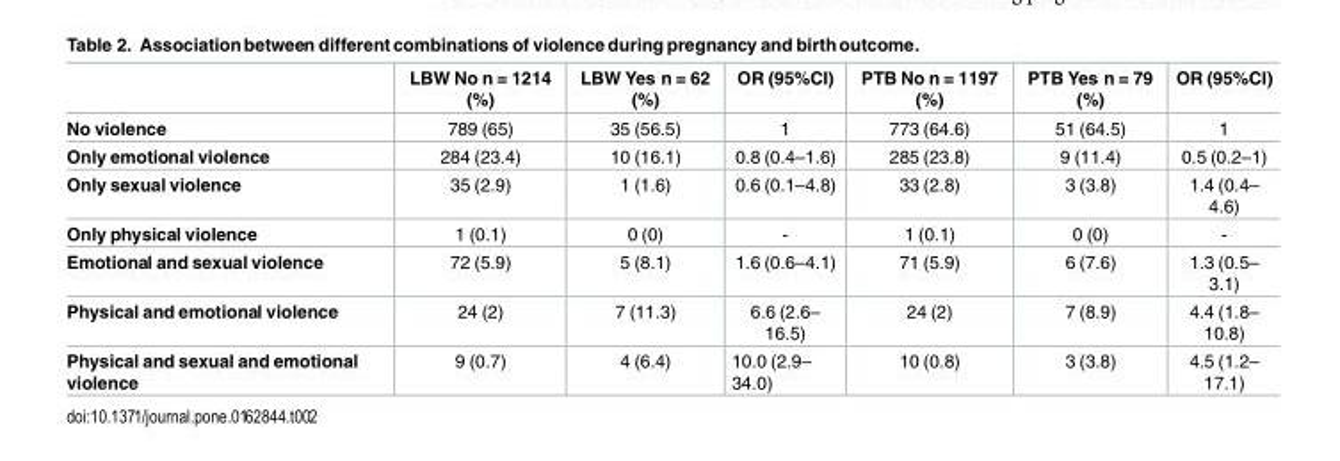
<table><thead><tr><td></td><td>LBW No n = 1214 (%)</td><td>LBW Yes n = 62 (%)</td><td>OR (95%CI)</td><td>PTB No n = 1197 (%)</td><td>PTB Yes n = 79 (%)</td><td>OR (95%CI)</td></tr></thead><tbody><tr><td>No violence</td><td>789 (65)</td><td>35 (56.5)</td><td>1</td><td>773 (64.6)</td><td>51 (64.5)</td><td>1</td></tr><tr><td>Only emotional violence</td><td>284 (23.4)</td><td>10 (16.1)</td><td>0.8 (0.4–1.6)</td><td>285 (23.8)</td><td>9 (11.4)</td><td>0.5 (0.2–1)</td></tr><tr><td>Only sexual violence</td><td>35 (2.9)</td><td>1 (1.6)</td><td>0.6 (0.1–4.8)</td><td>33 (2.8)</td><td>3 (3.8)</td><td>1.4 (0.4– 4.6)</td></tr><tr><td>Only physical violence</td><td>1 (0.1)</td><td>0 (0)</td><td>-</td><td>1 (0.1)</td><td>0 (0)</td><td>-</td></tr><tr><td>Emotional and sexual violence</td><td>72 (5.9)</td><td>5 (8.1)</td><td>1.6 (0.6–4.1)</td><td>71 (5.9)</td><td>6 (7.6)</td><td>1.3 (0.5– 3.1)</td></tr><tr><td>Physical and emotional violence</td><td>24 (2)</td><td>7 (11.3)</td><td>6.6 (2.6– 16.5)</td><td>24 (2)</td><td>7 (8.9)</td><td>4.4 (1.8– 10.8)</td></tr><tr><td>Physical and sexual and emotional violence</td><td>9 (0.7)</td><td>4 (6.4)</td><td>10.0 (2.9– 34.0)</td><td>10 (0.8)</td><td>3 (3.8)</td><td>4.5 (1.2– 17.1)</td></tr></tbody></table>